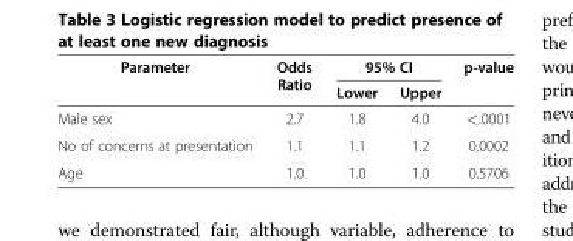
<table><thead><tr><td rowspan="2">Parameter</td><td rowspan="2">Odds Ratio</td><td colspan="2">95% CI</td><td rowspan="2">p-value</td></tr><tr><td>Lower</td><td>Upper</td></tr></thead><tbody><tr><td>Male sex</td><td>2.7</td><td>1.8</td><td>4.0</td><td>&lt;.0001</td></tr><tr><td>No of concerns at presentation</td><td>1.1</td><td>1.1</td><td>1.2</td><td>0.0002</td></tr><tr><td>Age</td><td>1.0</td><td>1.0</td><td>1.0</td><td>0.5706</td></tr></tbody></table>